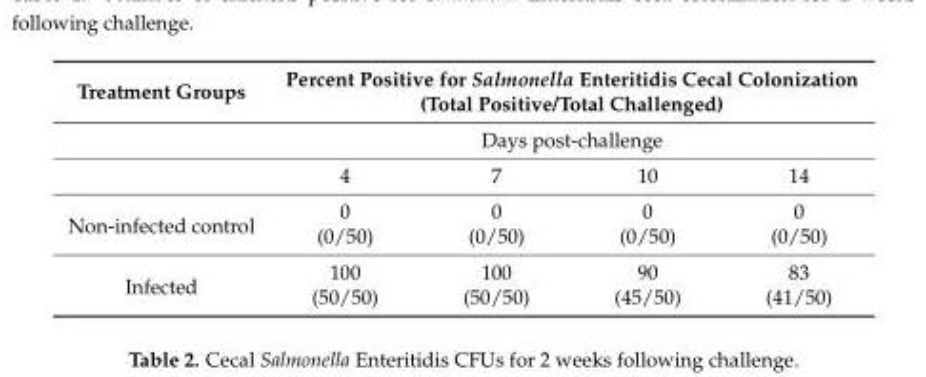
<table><thead><tr><td rowspan="3">Treatment Groups</td><td rowspan="2" colspan="4">Percent Positive for Salmonella Enteritidis Cecal Colonization (Total Positive/Total Challenged) Days post-challenge</td></tr><tr></tr><tr><td>4</td><td>7</td><td>10</td><td>14</td></tr></thead><tbody><tr><td rowspan="2">Non-infected control</td><td>0</td><td>0</td><td>0</td><td>0</td></tr><tr><td>(0/50)</td><td>(0/50)</td><td>(0/50)</td><td>(0/50)</td></tr><tr><td rowspan="2">Infected</td><td>100</td><td>100</td><td>90</td><td>83</td></tr><tr><td>(50/50)</td><td>(50/50)</td><td>(45/50)</td><td>(41/50)</td></tr></tbody></table>